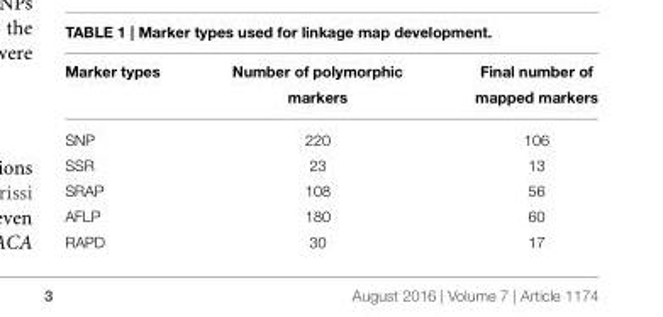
<table><thead><tr><td>Marker types</td><td>Number of polymorphic markers</td><td>Final number of mapped markers</td></tr></thead><tbody><tr><td>SNP</td><td>220</td><td>106</td></tr><tr><td>SSR</td><td>23</td><td>13</td></tr><tr><td>SRAP</td><td>108</td><td>56</td></tr><tr><td>AFLP</td><td>180</td><td>60</td></tr><tr><td>RAPD</td><td>30</td><td>17</td></tr></tbody></table>